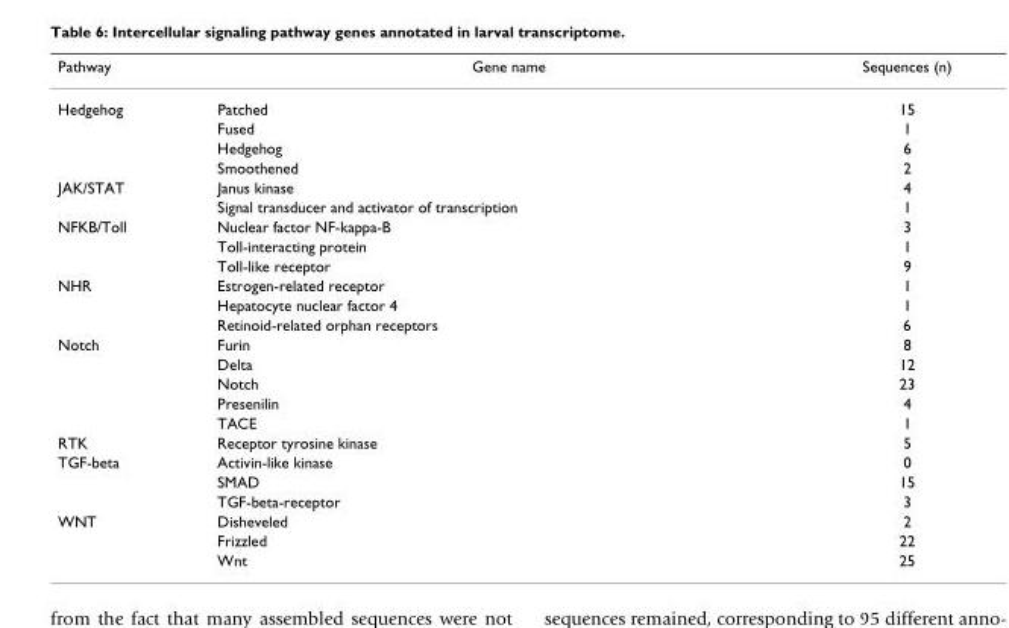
<table><thead><tr><td>Pathway</td><td>Gene name</td><td>Sequences (n)</td></tr></thead><tbody><tr><td rowspan="4">Hedgehog</td><td>Patched</td><td>15</td></tr><tr><td>Fused</td><td>1</td></tr><tr><td>Hedgehog</td><td>6</td></tr><tr><td>Smoothened</td><td>2</td></tr><tr><td rowspan="2">JAK/STAT</td><td>Janus kinase</td><td>4</td></tr><tr><td>Signal transducer and activator of transcription</td><td>1</td></tr><tr><td rowspan="3">NFKB/Toll</td><td>Nuclear factor NF-kappa-B</td><td>3</td></tr><tr><td>Toll-interacting protein</td><td>1</td></tr><tr><td>Toll-like receptor</td><td>9</td></tr><tr><td rowspan="3">NHR</td><td>Estrogen-related receptor</td><td>1</td></tr><tr><td>Hepatocyte nuclear factor 4</td><td>1</td></tr><tr><td>Retinoid-related orphan receptors</td><td>6</td></tr><tr><td rowspan="5">Notch</td><td>Furin</td><td>8</td></tr><tr><td>Delta</td><td>12</td></tr><tr><td>Notch</td><td>23</td></tr><tr><td>Presenilin</td><td>4</td></tr><tr><td>TACE</td><td>1</td></tr><tr><td>RTK</td><td>Receptor tyrosine kinase</td><td>5</td></tr><tr><td rowspan="3">TGF-beta</td><td>Activin-like kinase</td><td>0</td></tr><tr><td>SMAD</td><td>15</td></tr><tr><td>TGF-beta-receptor</td><td>3</td></tr><tr><td rowspan="3">WNT</td><td>Disheveled</td><td>2</td></tr><tr><td>Frizzled</td><td>22</td></tr><tr><td>Wnt</td><td>25</td></tr></tbody></table>